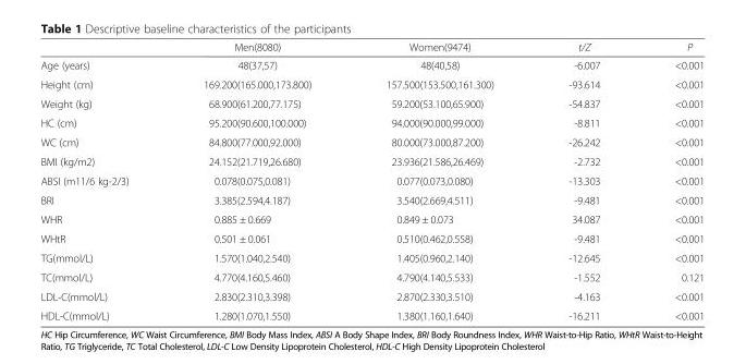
<table><thead><tr><td></td><td>Men(8080)</td><td>Women(9474)</td><td>t/Z</td><td>P</td></tr></thead><tbody><tr><td>Age (years)</td><td>48(37,57)</td><td>48(40,58)</td><td>-6.007</td><td>&lt;0.001</td></tr><tr><td>Height (cm)</td><td>169.200(165.000,173.800)</td><td>157.500(153.500,161.300)</td><td>-93.614</td><td>&lt;0.001</td></tr><tr><td>Weight (kg)</td><td>68.900(61.200,77.175)</td><td>59.200(53.100,65.900)</td><td>-54.837</td><td>&lt;0.001</td></tr><tr><td>HC (cm)</td><td>95.200(90.600,100.000)</td><td>94.000(90.000,99.000)</td><td>-8.811</td><td>&lt;0.001</td></tr><tr><td>WC (cm)</td><td>84.800(77.000,92.000)</td><td>80.000(73.000,87.200)</td><td>-26.242</td><td>&lt;0.001</td></tr><tr><td>BMI (kg/m2)</td><td>24.152(21.719,26.680)</td><td>23.936(21.586,26.469)</td><td>-2.732</td><td>&lt;0.001</td></tr><tr><td>ABSI (m11/6 kg-2/3)</td><td>0.078(0.075,0.081)</td><td>0.077(0.073,0.080)</td><td>-13.303</td><td>&lt;0.001</td></tr><tr><td>BRI</td><td>3.385(2.594,4.187)</td><td>3.540(2.669,4.511)</td><td>-9.481</td><td>&lt;0.001</td></tr><tr><td>WHR</td><td>0.885 ± 0.669</td><td>0.849 ± 0.073</td><td>34.087</td><td>&lt;0.001</td></tr><tr><td>WHtR</td><td>0.501 ± 0.061</td><td>0.510(0.462,0.558)</td><td>-9.481</td><td>&lt;0.001</td></tr><tr><td>TG(mmol/L)</td><td>1.570(1.040,2.540)</td><td>1.405(0.960,2.140)</td><td>-12.645</td><td>&lt;0.001</td></tr><tr><td>TC(mmol/L)</td><td>4.770(4.160,5.460)</td><td>4.790(4.140,5.533)</td><td>-1.552</td><td>0.121</td></tr><tr><td>LDL-C(mmol/L)</td><td>2.830(2.310,3.398)</td><td>2.870(2.330,3.510)</td><td>-4.163</td><td>&lt;0.001</td></tr><tr><td>HDL-C(mmol/L)</td><td>1.280(1.070,1.550)</td><td>1.380(1.160,1.640)</td><td>-16.211</td><td>&lt;0.001</td></tr></tbody></table>